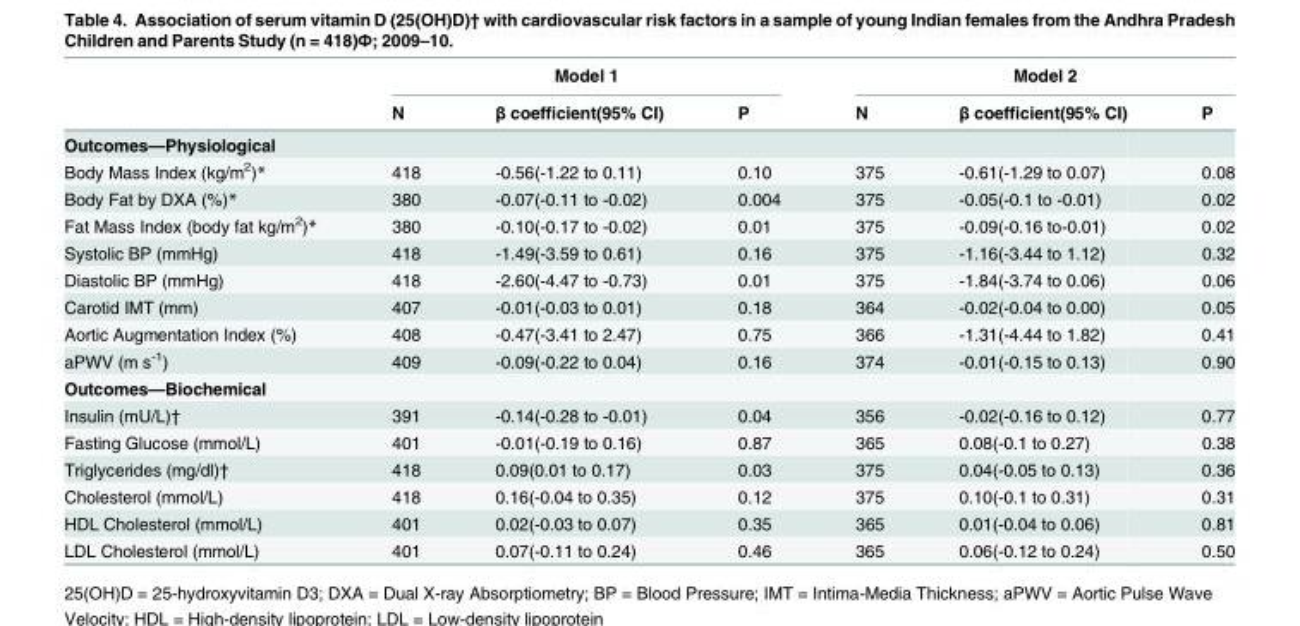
<table><thead><tr><td rowspan="2"></td><td colspan="3">Model 1</td><td colspan="3">Model 2</td></tr><tr><td>N</td><td>β coefficient(95% CI)</td><td>P</td><td>N</td><td>β coefficient(95% CI)</td><td>P</td></tr></thead><tbody><tr><td colspan="7">Outcomes—Physiological</td></tr><tr><td>Body Mass Index (kg/m<sup>2</sup>)*</td><td>418</td><td>-0.56(-1.22 to 0.11)</td><td>0.10</td><td>375</td><td>-0.61(-1.29 to 0.07)</td><td>0.08</td></tr><tr><td>Body Fat by DXA (%)*</td><td>380</td><td>-0.07(-0.11 to -0.02)</td><td>0.004</td><td>375</td><td>-0.05(-0.1 to -0.01)</td><td>0.02</td></tr><tr><td>Fat Mass Index (body fat kg/m<sup>2</sup>)*</td><td>380</td><td>-0.10(-0.17 to -0.02)</td><td>0.01</td><td>375</td><td>-0.09(-0.16 to-0.01)</td><td>0.02</td></tr><tr><td>Systolic BP (mmHg)</td><td>418</td><td>-1.49(-3.59 to 0.61)</td><td>0.16</td><td>375</td><td>-1.16(-3.44 to 1.12)</td><td>0.32</td></tr><tr><td>Diastolic BP (mmHg)</td><td>418</td><td>-2.60(-4.47 to -0.73)</td><td>0.01</td><td>375</td><td>-1.84(-3.74 to 0.06)</td><td>0.06</td></tr><tr><td>Carotid IMT (mm)</td><td>407</td><td>-0.01(-0.03 to 0.01)</td><td>0.18</td><td>364</td><td>-0.02(-0.04 to 0.00)</td><td>0.05</td></tr><tr><td>Aortic Augmentation Index (%)</td><td>408</td><td>-0.47(-3.41 to 2.47)</td><td>0.75</td><td>366</td><td>-1.31(-4.44 to 1.82)</td><td>0.41</td></tr><tr><td>aPWV (m s<sup>-1</sup>)</td><td>409</td><td>-0.09(-0.22 to 0.04)</td><td>0.16</td><td>374</td><td>-0.01(-0.15 to 0.13)</td><td>0.90</td></tr><tr><td colspan="7">Outcomes—Biochemical</td></tr><tr><td>Insulin (mU/L)†</td><td>391</td><td>-0.14(-0.28 to -0.01)</td><td>0.04</td><td>356</td><td>-0.02(-0.16 to 0.12)</td><td>0.77</td></tr><tr><td>Fasting Glucose (mmol/L)</td><td>401</td><td>-0.01(-0.19 to 0.16)</td><td>0.87</td><td>365</td><td>0.08(-0.1 to 0.27)</td><td>0.38</td></tr><tr><td>Triglycerides (mg/dl)†</td><td>418</td><td>0.09(0.01 to 0.17)</td><td>0.03</td><td>375</td><td>0.04(-0.05 to 0.13)</td><td>0.36</td></tr><tr><td>Cholesterol (mmol/L)</td><td>418</td><td>0.16(-0.04 to 0.35)</td><td>0.12</td><td>375</td><td>0.10(-0.1 to 0.31)</td><td>0.31</td></tr><tr><td>HDL Cholesterol (mmol/L)</td><td>401</td><td>0.02(-0.03 to 0.07)</td><td>0.35</td><td>365</td><td>0.01(-0.04 to 0.06)</td><td>0.81</td></tr><tr><td>LDL Cholesterol (mmol/L)</td><td>401</td><td>0.07(-0.11 to 0.24)</td><td>0.46</td><td>365</td><td>0.06(-0.12 to 0.24)</td><td>0.50</td></tr></tbody></table>